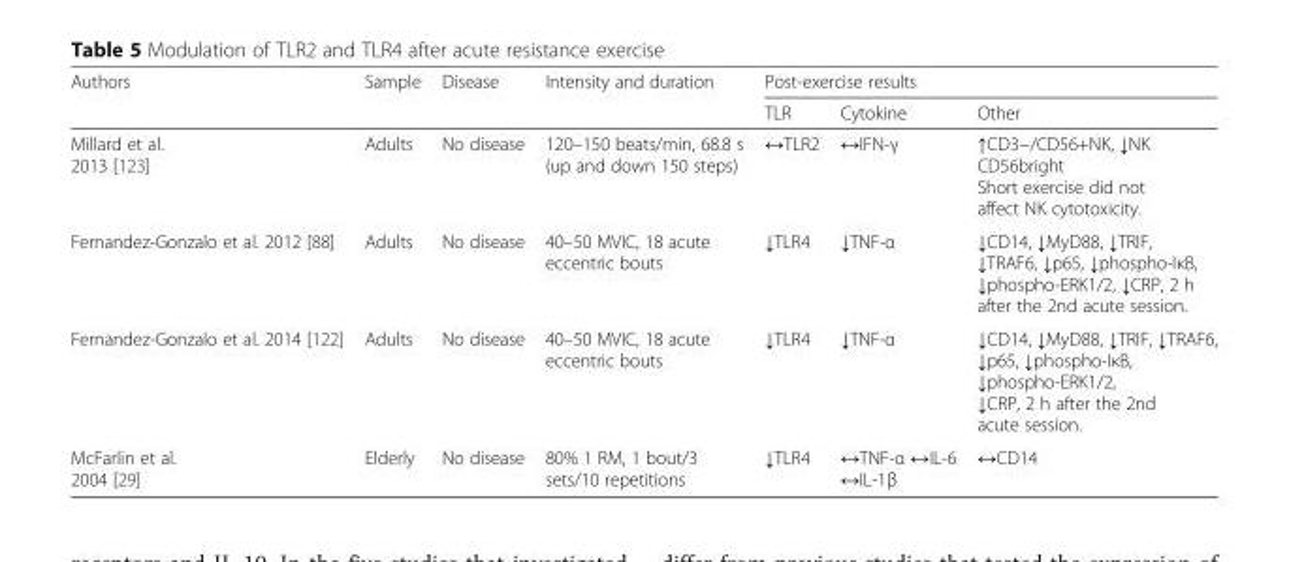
<table><thead><tr><td rowspan="2">Authors</td><td rowspan="2">Sample</td><td rowspan="2">Disease</td><td rowspan="2">Intensity and duration</td><td colspan="3">Post-exercise results</td></tr><tr><td>TLR</td><td>Cytokine</td><td>Other</td></tr></thead><tbody><tr><td>Millard et al. 2013 [123]</td><td>Adults</td><td>No disease</td><td>120–150 beats/min, 68.8 s (up and down 150 steps)</td><td>↔TLR2</td><td>↔IFN-γ</td><td>↑CD3−/CD56+NK, ↓NK CD56bright Short exercise did not affect NK cytotoxicity.</td></tr><tr><td>Fernandez-Gonzalo et al. 2012 [88]</td><td>Adults</td><td>No disease</td><td>40–50 MVIC, 18 acute eccentric bouts</td><td>↓TLR4</td><td>↓TNF-α</td><td>↓CD14, ↓MyD88, ↓TRIF, ↓TRAF6, ↓p65, ↓phospho-IκB, ↓phospho-ERK1/2, ↓CRP, 2 h after the 2nd acute session.</td></tr><tr><td>Fernandez-Gonzalo et al. 2014 [122]</td><td>Adults</td><td>No disease</td><td>40–50 MVIC, 18 acute eccentric bouts</td><td>↓TLR4</td><td>↓TNF-α</td><td>↓CD14, ↓MyD88, ↓TRIF, ↓TRAF6, ↓p65, ↓phospho-IκB, ↓phospho-ERK1/2, ↓CRP, 2 h after the 2nd acute session.</td></tr><tr><td>McFarlin et al. 2004 [29]</td><td>Elderly</td><td>No disease</td><td>80% 1 RM, 1 bout/3 sets/10 repetitions</td><td>↓TLR4</td><td>↔TNF-α ↔IL-6 ↔IL-1β</td><td>↔CD14</td></tr></tbody></table>